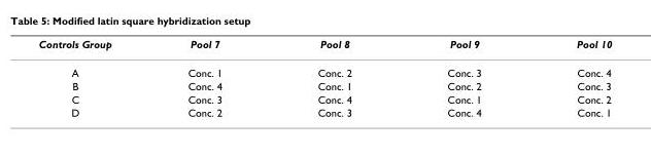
<table><thead><tr><td>Controls Group</td><td>Pool 7</td><td>Pool 8</td><td>Pool 9</td><td>Pool 10</td></tr></thead><tbody><tr><td>A</td><td>Conc. 1</td><td>Conc. 2</td><td>Conc. 3</td><td>Conc. 4</td></tr><tr><td>B</td><td>Conc. 4</td><td>Conc. 1</td><td>Conc. 2</td><td>Conc. 3</td></tr><tr><td>C</td><td>Conc. 3</td><td>Conc. 4</td><td>Conc. 1</td><td>Conc. 2</td></tr><tr><td>D</td><td>Conc. 2</td><td>Conc. 3</td><td>Conc. 4</td><td>Conc. 1</td></tr></tbody></table>